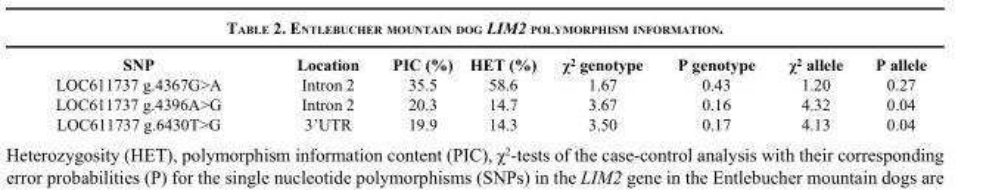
<table><tbody><tr><td>SNP</td><td>Location</td><td>PIC (%)</td><td>HET (%)</td><td>χ<sup>2</sup> genotype</td><td>P genotype</td><td>χ<sup>2</sup> allele</td><td>P allele</td></tr><tr><td>LOC611737 g.4367G&gt;A</td><td>Intron 2</td><td>35.5</td><td>58.6</td><td>1.67</td><td>0.43</td><td>1.20</td><td>0.27</td></tr><tr><td>LOC611737 g.4396A&gt;G</td><td>Intron 2</td><td>20.3</td><td>14.7</td><td>3.67</td><td>0.16</td><td>4.32</td><td>0.04</td></tr><tr><td>LOC611737 g.6430T&gt;G</td><td>3’UTR</td><td>19.9</td><td>14.3</td><td>3.50</td><td>0.17</td><td>4.13</td><td>0.04</td></tr></tbody></table>